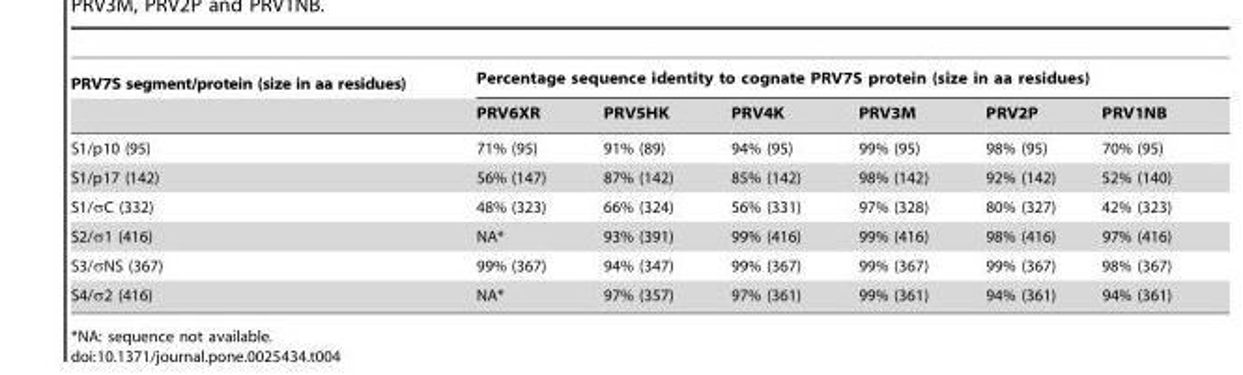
<table><thead><tr><td rowspan="2">PRV7S segment/protein (size in aa residues)</td><td colspan="6">Percentage sequence identity to cognate PRV7S protein (size in aa residues)</td></tr><tr><td>PRV6XR</td><td>PRV5HK</td><td>PRV4K</td><td>PRV3M</td><td>PRV2P</td><td>PRV1NB</td></tr></thead><tbody><tr><td>S1/p10 (95)</td><td>71% (95)</td><td>91% (89)</td><td>94% (95)</td><td>99% (95)</td><td>98% (95)</td><td>70% (95)</td></tr><tr><td>S1/p17 (142)</td><td>56% (147)</td><td>87% (142)</td><td>85% (142)</td><td>98% (142)</td><td>92% (142)</td><td>52% (140)</td></tr><tr><td>S1/σC (332)</td><td>48% (323)</td><td>66% (324)</td><td>56% (331)</td><td>97% (328)</td><td>80% (327)</td><td>42% (323)</td></tr><tr><td>S2/σ1 (416)</td><td>NA*</td><td>93% (391)</td><td>99% (416)</td><td>99% (416)</td><td>98% (416)</td><td>97% (416)</td></tr><tr><td>S3/σNS (367)</td><td>99% (367)</td><td>94% (347)</td><td>99% (367)</td><td>99% (367)</td><td>99% (367)</td><td>98% (367)</td></tr><tr><td>S4/σ2 (416)</td><td>NA*</td><td>97% (357)</td><td>97% (361)</td><td>99% (361)</td><td>94% (361)</td><td>94% (361)</td></tr></tbody></table>